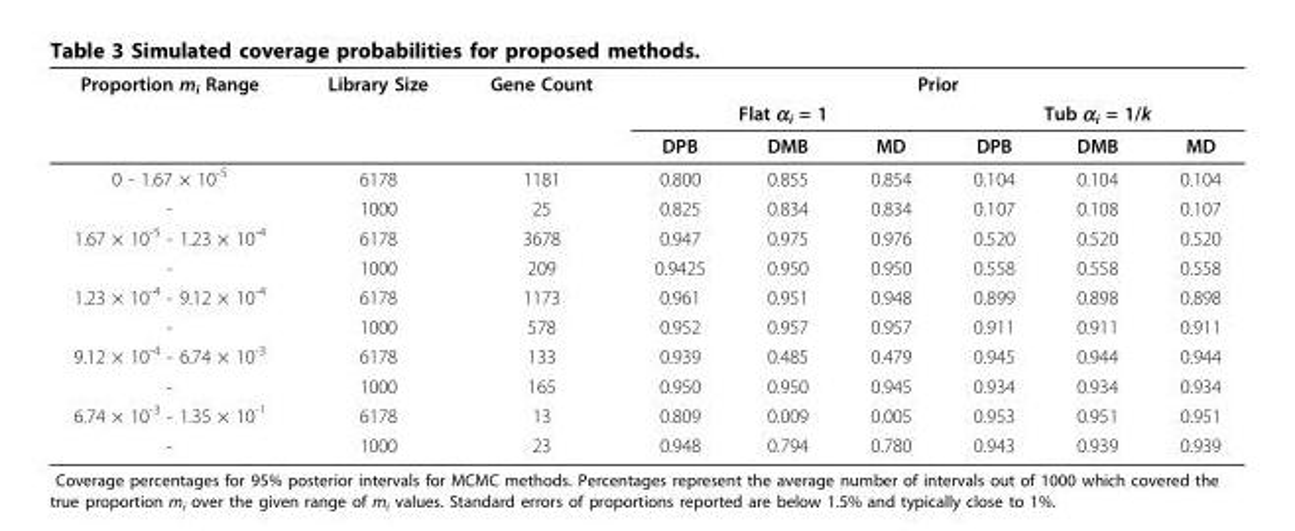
<table><thead><tr><td rowspan="3">Proportion m<sub>i</sub> Range</td><td rowspan="3">Library Size</td><td rowspan="3">Gene Count</td><td colspan="6">Prior</td></tr><tr><td colspan="3">Flat α<sub>i</sub> = 1</td><td colspan="3">Tub α<sub>i</sub> = 1/k</td></tr><tr><td>DPB</td><td>DMB</td><td>MD</td><td>DPB</td><td>DMB</td><td>MD</td></tr></thead><tbody><tr><td>0 - 1.67 × 10<sup>-5</sup></td><td>6178</td><td>1181</td><td>0.800</td><td>0.855</td><td>0.854</td><td>0.104</td><td>0.104</td><td>0.104</td></tr><tr><td>-</td><td>1000</td><td>25</td><td>0.825</td><td>0.834</td><td>0.834</td><td>0.107</td><td>0.108</td><td>0.107</td></tr><tr><td>1.67 × 10<sup>-5</sup> - 1.23 × 10<sup>-4</sup></td><td>6178</td><td>3678</td><td>0.947</td><td>0.975</td><td>0.976</td><td>0.520</td><td>0.520</td><td>0.520</td></tr><tr><td>-</td><td>1000</td><td>209</td><td>0.9425</td><td>0.950</td><td>0.950</td><td>0.558</td><td>0.558</td><td>0.558</td></tr><tr><td>1.23 × 10<sup>-4</sup> - 9.12 × 10<sup>-4</sup></td><td>6178</td><td>1173</td><td>0.961</td><td>0.951</td><td>0.948</td><td>0.899</td><td>0.898</td><td>0.898</td></tr><tr><td>-</td><td>1000</td><td>578</td><td>0.952</td><td>0.957</td><td>0.957</td><td>0.911</td><td>0.911</td><td>0.911</td></tr><tr><td>9.12 × 10<sup>-4</sup> - 6.74 × 10<sup>-3</sup></td><td>6178</td><td>133</td><td>0.939</td><td>0.485</td><td>0.479</td><td>0.945</td><td>0.944</td><td>0.944</td></tr><tr><td>-</td><td>1000</td><td>165</td><td>0.950</td><td>0.950</td><td>0.945</td><td>0.934</td><td>0.934</td><td>0.934</td></tr><tr><td>6.74 × 10<sup>-3</sup> - 1.35 × 10<sup>-1</sup></td><td>6178</td><td>13</td><td>0.809</td><td>0.009</td><td>0.005</td><td>0.953</td><td>0.951</td><td>0.951</td></tr><tr><td>-</td><td>1000</td><td>23</td><td>0.948</td><td>0.794</td><td>0.780</td><td>0.943</td><td>0.939</td><td>0.939</td></tr></tbody></table>